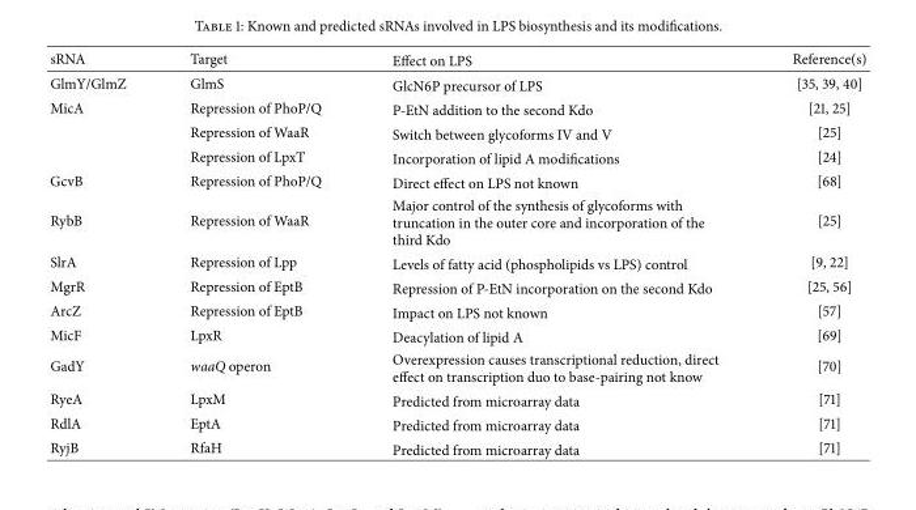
<table><thead><tr><td>sRNA</td><td>Target</td><td>Effect on LPS</td><td>Reference(s)</td></tr></thead><tbody><tr><td>GlmY/GlmZ</td><td>GlmS</td><td>GlcN6P precursor of LPS</td><td>[35, 39, 40]</td></tr><tr><td rowspan="3">MicA</td><td>Repression of PhoP/Q</td><td>P-EtN addition to the second Kdo</td><td>[21, 25]</td></tr><tr><td>Repression of WaaR</td><td>Switch between glycoforms IV and V</td><td>[25]</td></tr><tr><td>Repression of LpxT</td><td>Incorporation of lipid A modifications</td><td>[24]</td></tr><tr><td>GcvB</td><td>Repression of PhoP/Q</td><td>Direct effect on LPS not known</td><td>[68]</td></tr><tr><td>RybB</td><td>Repression of WaaR</td><td>Major control of the synthesis of glycoforms with truncation in the outer core and incorporation of the third Kdo</td><td>[25]</td></tr><tr><td>SlrA</td><td>Repression of Lpp</td><td>Levels of fatty acid (phospholipids vs LPS) control</td><td>[9, 22]</td></tr><tr><td>MgrR</td><td>Repression of EptB</td><td>Repression of P-EtN incorporation on the second Kdo</td><td>[25, 56]</td></tr><tr><td>ArcZ</td><td>Repression of EptB</td><td>Impact on LPS not known</td><td>[57]</td></tr><tr><td>MicF</td><td>LpxR</td><td>Deacylation of lipid A</td><td>[69]</td></tr><tr><td>GadY</td><td>waaQ operon</td><td>Overexpression causes transcriptional reduction, direct effect on transcription duo to base-pairing not know</td><td>[70]</td></tr><tr><td>RyeA</td><td>LpxM</td><td>Predicted from microarray data</td><td>[71]</td></tr><tr><td>RdlA</td><td>EptA</td><td>Predicted from microarray data</td><td>[71]</td></tr><tr><td>RyjB</td><td>RfaH</td><td>Predicted from microarray data</td><td>[71]</td></tr></tbody></table>